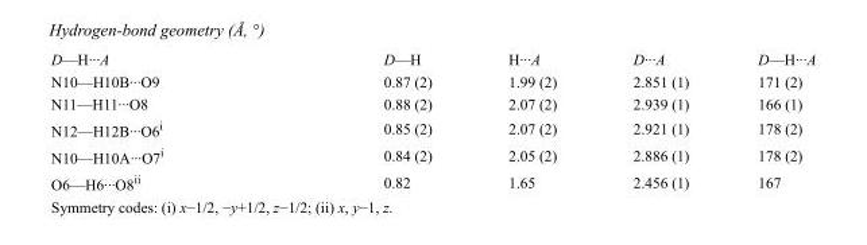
<table><tbody><tr><td>D—H···A</td><td>D—H</td><td>H···A</td><td>D···A</td><td>D—H···A</td></tr><tr><td>N10—H10B···O9</td><td>0.87 (2)</td><td>1.99 (2)</td><td>2.851 (1)</td><td>171 (2)</td></tr><tr><td>N11—H11···O8</td><td>0.88 (2)</td><td>2.07 (2)</td><td>2.939 (1)</td><td>166 (1)</td></tr><tr><td>N12—H12B···O6<sup>i</sup></td><td>0.85 (2)</td><td>2.07 (2)</td><td>2.921 (1)</td><td>178 (2)</td></tr><tr><td>N10—H10A···O7<sup>i</sup></td><td>0.84 (2)</td><td>2.05 (2)</td><td>2.886 (1)</td><td>178 (2)</td></tr><tr><td>O6—H6···O8<sup>ii</sup></td><td>0.82</td><td>1.65</td><td>2.456 (1)</td><td>167</td></tr></tbody></table>